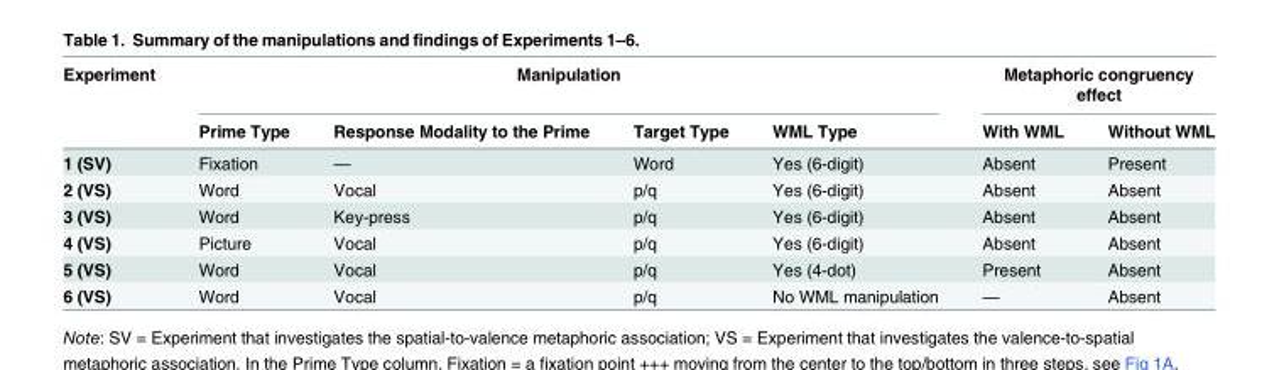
<table><thead><tr><td rowspan="2">Experiment</td><td colspan="4">Manipulation</td><td colspan="2">Metaphoric congruency effect</td></tr><tr><td>Prime Type</td><td>Response Modality to the Prime</td><td>Target Type</td><td>WML Type</td><td>With WML</td><td>Without WML</td></tr></thead><tbody><tr><td>1 (SV)</td><td>Fixation</td><td>—</td><td>Word</td><td>Yes (6-digit)</td><td>Absent</td><td>Present</td></tr><tr><td>2 (VS)</td><td>Word</td><td>Vocal</td><td>p/q</td><td>Yes (6-digit)</td><td>Absent</td><td>Absent</td></tr><tr><td>3 (VS)</td><td>Word</td><td>Key-press</td><td>p/q</td><td>Yes (6-digit)</td><td>Absent</td><td>Absent</td></tr><tr><td>4 (VS)</td><td>Picture</td><td>Vocal</td><td>p/q</td><td>Yes (6-digit)</td><td>Absent</td><td>Absent</td></tr><tr><td>5 (VS)</td><td>Word</td><td>Vocal</td><td>p/q</td><td>Yes (4-dot)</td><td>Present</td><td>Absent</td></tr><tr><td>6 (VS)</td><td>Word</td><td>Vocal</td><td>p/q</td><td>No WML manipulation</td><td>—</td><td>Absent</td></tr></tbody></table>